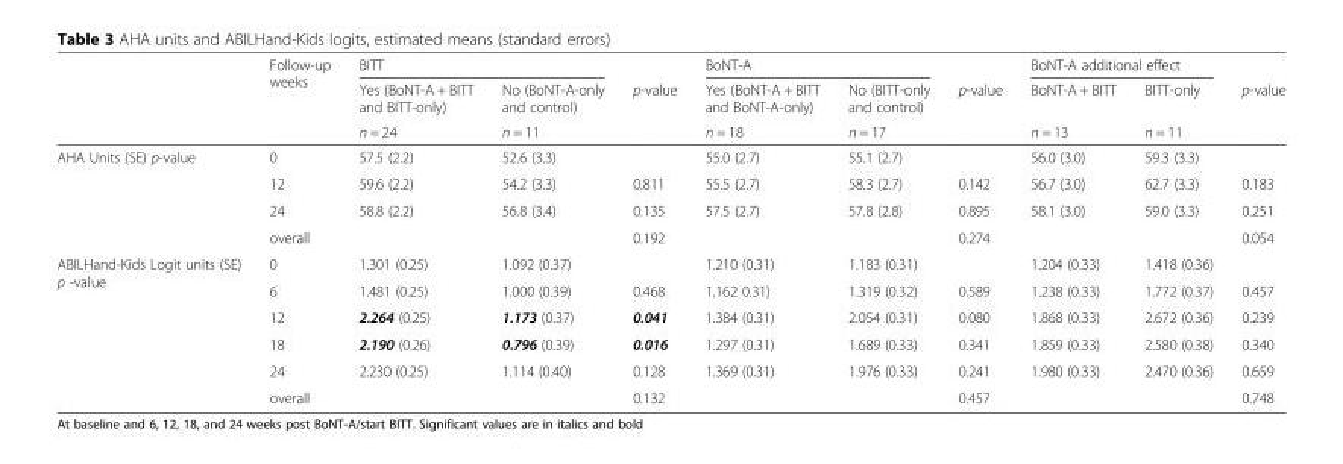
<table><thead><tr><td rowspan="3"></td><td rowspan="3">Follow-up weeks</td><td colspan="2">BITT</td><td rowspan="3">p-value</td><td colspan="2">BoNT-A</td><td rowspan="3">p-value</td><td colspan="2">BoNT-A additional effect</td><td rowspan="3">p-value</td></tr><tr><td rowspan="2">Yes (BoNT-A + BITT and BITT-only) n = 24</td><td rowspan="2">No (BoNT-A-only and control) n = 11</td><td rowspan="2">Yes (BoNT-A + BITT and BoNT-A-only) n = 18</td><td rowspan="2">No (BITT-only and control) n = 17</td><td rowspan="2">BoNT-A + BITT n = 13</td><td rowspan="2">BITT-only n = 11</td></tr><tr></tr></thead><tbody><tr><td rowspan="4">AHA Units (SE) p-value</td><td>0</td><td>57.5 (2.2)</td><td>52.6 (3.3)</td><td></td><td>55.0 (2.7)</td><td>55.1 (2.7)</td><td></td><td>56.0 (3.0)</td><td>59.3 (3.3)</td><td></td></tr><tr><td>12</td><td>59.6 (2.2)</td><td>54.2 (3.3)</td><td>0.811</td><td>55.5 (2.7)</td><td>58.3 (2.7)</td><td>0.142</td><td>56.7 (3.0)</td><td>62.7 (3.3)</td><td>0.183</td></tr><tr><td>24</td><td>58.8 (2.2)</td><td>56.8 (3.4)</td><td>0.135</td><td>57.5 (2.7)</td><td>57.8 (2.8)</td><td>0.895</td><td>58.1 (3.0)</td><td>59.0 (3.3)</td><td>0.251</td></tr><tr><td>overall</td><td></td><td></td><td>0.192</td><td></td><td></td><td>0.274</td><td></td><td></td><td>0.054</td></tr><tr><td rowspan="6">ABILHand-Kids Logit units (SE) p -value</td><td>0</td><td>1.301 (0.25)</td><td>1.092 (0.37)</td><td></td><td>1.210 (0.31)</td><td>1.183 (0.31)</td><td></td><td>1.204 (0.33)</td><td>1.418 (0.36)</td><td></td></tr><tr><td>6</td><td>1.481 (0.25)</td><td>1.000 (0.39)</td><td>0.468</td><td>1.162 0.31)</td><td>1.319 (0.32)</td><td>0.589</td><td>1.238 (0.33)</td><td>1.772 (0.37)</td><td>0.457</td></tr><tr><td>12</td><td>2.264 (0.25)</td><td>1.173 (0.37)</td><td>0.041</td><td>1.384 (0.31)</td><td>2.054 (0.31)</td><td>0.080</td><td>1.868 (0.33)</td><td>2.672 (0.36)</td><td>0.239</td></tr><tr><td>18</td><td>2.190 (0.26)</td><td>0.796 (0.39)</td><td>0.016</td><td>1.297 (0.31)</td><td>1.689 (0.33)</td><td>0.341</td><td>1.859 (0.33)</td><td>2.580 (0.38)</td><td>0.340</td></tr><tr><td>24</td><td>2.230 (0.25)</td><td>1.114 (0.40)</td><td>0.128</td><td>1.369 (0.31)</td><td>1.976 (0.33)</td><td>0.241</td><td>1.980 (0.33)</td><td>2.470 (0.36)</td><td>0.659</td></tr><tr><td>overall</td><td></td><td></td><td>0.132</td><td></td><td></td><td>0.457</td><td></td><td></td><td>0.748</td></tr></tbody></table>